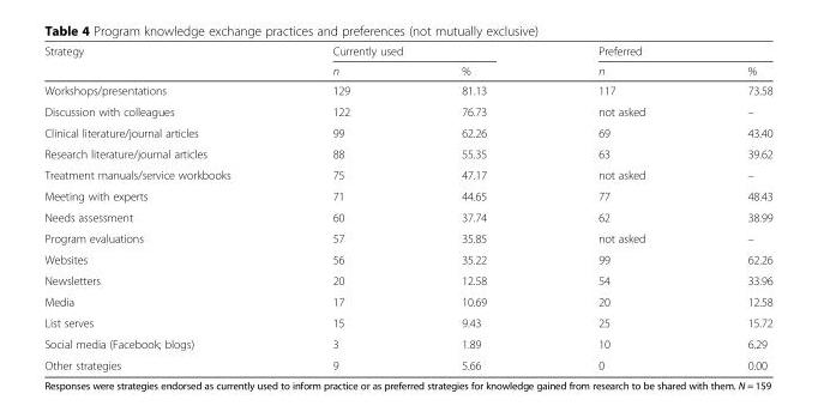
<table><thead><tr><td rowspan="2">Strategy</td><td colspan="2">Currently used</td><td colspan="2">Preferred</td></tr><tr><td>n</td><td>%</td><td>n</td><td>%</td></tr></thead><tbody><tr><td>Workshops/presentations</td><td>129</td><td>81.13</td><td>117</td><td>73.58</td></tr><tr><td>Discussion with colleagues</td><td>122</td><td>76.73</td><td>not asked</td><td>–</td></tr><tr><td>Clinical literature/journal articles</td><td>99</td><td>62.26</td><td>69</td><td>43.40</td></tr><tr><td>Research literature/journal articles</td><td>88</td><td>55.35</td><td>63</td><td>39.62</td></tr><tr><td>Treatment manuals/service workbooks</td><td>75</td><td>47.17</td><td>not asked</td><td>–</td></tr><tr><td>Meeting with experts</td><td>71</td><td>44.65</td><td>77</td><td>48.43</td></tr><tr><td>Needs assessment</td><td>60</td><td>37.74</td><td>62</td><td>38.99</td></tr><tr><td>Program evaluations</td><td>57</td><td>35.85</td><td>not asked</td><td>–</td></tr><tr><td>Websites</td><td>56</td><td>35.22</td><td>99</td><td>62.26</td></tr><tr><td>Newsletters</td><td>20</td><td>12.58</td><td>54</td><td>33.96</td></tr><tr><td>Media</td><td>17</td><td>10.69</td><td>20</td><td>12.58</td></tr><tr><td>List serves</td><td>15</td><td>9.43</td><td>25</td><td>15.72</td></tr><tr><td>Social media (Facebook; blogs)</td><td>3</td><td>1.89</td><td>10</td><td>6.29</td></tr><tr><td>Other strategies</td><td>9</td><td>5.66</td><td>0</td><td>0.00</td></tr></tbody></table>